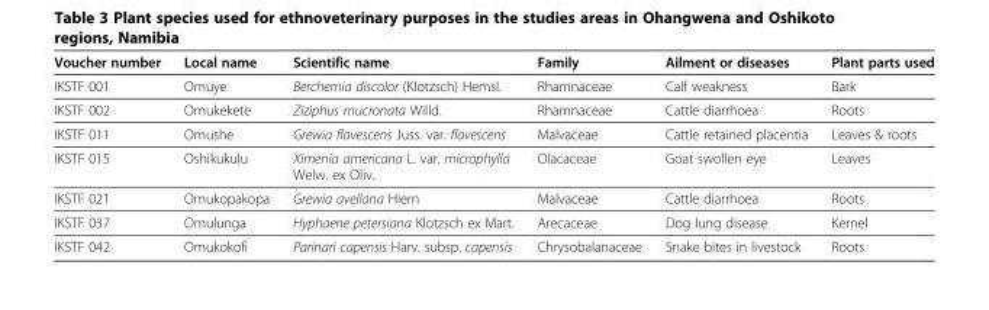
<table><thead><tr><td>Voucher number</td><td>Local name</td><td>Scientific name</td><td>Family</td><td>Ailment or diseases</td><td>Plant parts used</td></tr></thead><tbody><tr><td>IKSTF 001</td><td>Omuye</td><td>Berchemia discolor (Klotzsch) Hemsl.</td><td>Rhamnaceae</td><td>Calf weakness</td><td>Bark</td></tr><tr><td>IKSTF 002</td><td>Omukekete</td><td>Ziziphus mucronata Willd.</td><td>Rhamnaceae</td><td>Cattle diarrhoea</td><td>Roots</td></tr><tr><td>IKSTF 011</td><td>Omushe</td><td>Grewia flavescens Juss. var. flavescens</td><td>Malvaceae</td><td>Cattle retained placentia</td><td>Leaves &amp; roots</td></tr><tr><td>IKSTF 015</td><td>Oshikukulu</td><td>Ximenia americana L. var. microphylla Welw. ex Oliv.</td><td>Olacaceae</td><td>Goat swollen eye</td><td>Leaves</td></tr><tr><td>IKSTF 021</td><td>Omukopakopa</td><td>Grewia avellana Hiern</td><td>Malvaceae</td><td>Cattle diarrhoea</td><td>Roots</td></tr><tr><td>IKSTF 037</td><td>Omulunga</td><td>Hyphaene petersiana Klotzsch ex Mart.</td><td>Arecaceae</td><td>Dog lung disease</td><td>Kernel</td></tr><tr><td>IKSTF 042</td><td>Omukokofi</td><td>Parinari capensis Harv. subsp. capensis</td><td>Chrysobalanaceae</td><td>Snake bites in livestock</td><td>Roots</td></tr></tbody></table>